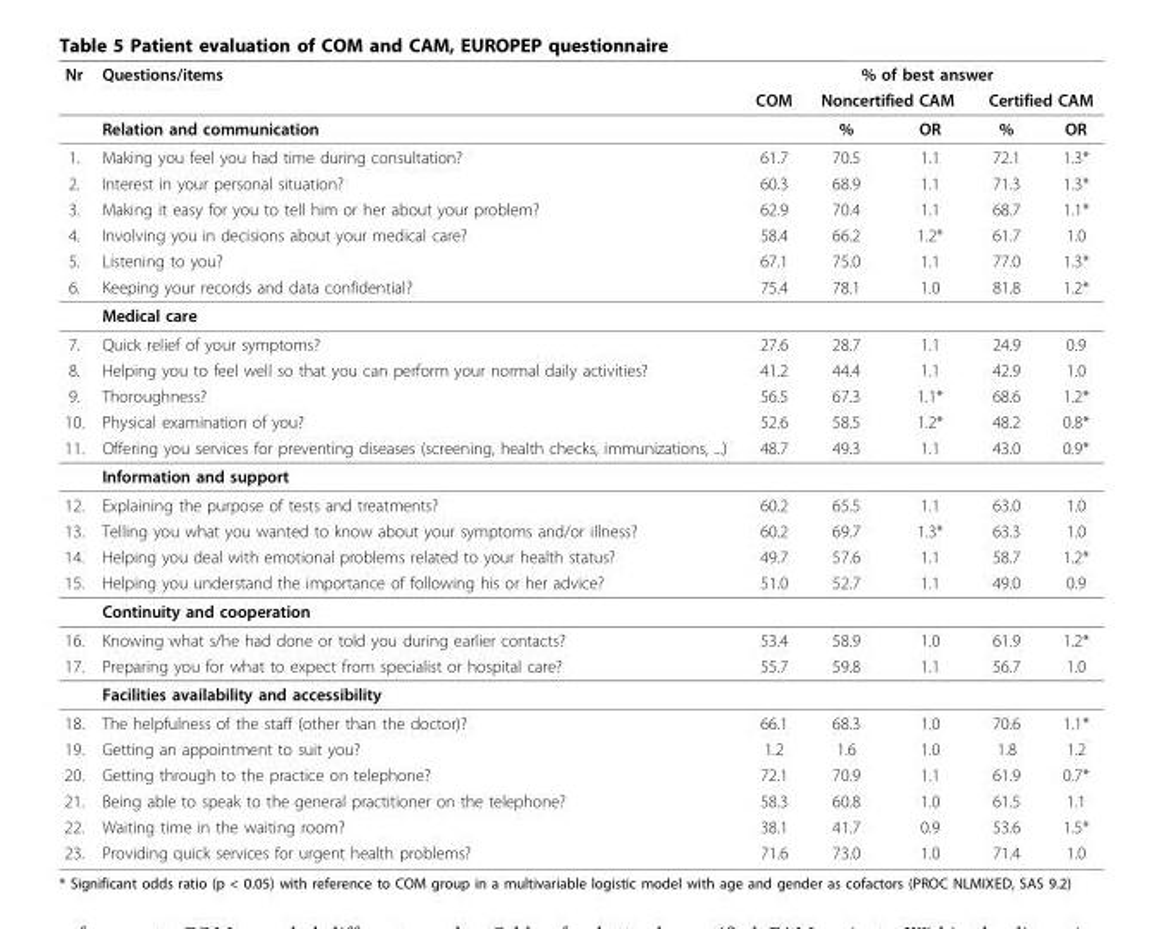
<table><thead><tr><td rowspan="3">Nr</td><td rowspan="3">Questions/items Relation and communication</td><td colspan="5">% of best answer</td></tr><tr><td rowspan="2">COM</td><td colspan="2">Noncertified CAM</td><td colspan="2">Certified CAM</td></tr><tr><td>%</td><td>OR</td><td>%</td><td>OR</td></tr></thead><tbody><tr><td>1.</td><td>Making you feel you had time during consultation?</td><td>61.7</td><td>70.5</td><td>1.1</td><td>72.1</td><td>1.3*</td></tr><tr><td>2.</td><td>Interest in your personal situation?</td><td>60.3</td><td>68.9</td><td>1.1</td><td>71.3</td><td>1.3*</td></tr><tr><td>3.</td><td>Making it easy for you to tell him or her about your problem?</td><td>62.9</td><td>70.4</td><td>1.1</td><td>68.7</td><td>1.1*</td></tr><tr><td>4.</td><td>Involving you in decisions about your medical care?</td><td>58.4</td><td>66.2</td><td>1.2*</td><td>61.7</td><td>1.0</td></tr><tr><td>5.</td><td>Listening to you?</td><td>67.1</td><td>75.0</td><td>1.1</td><td>77.0</td><td>1.3*</td></tr><tr><td rowspan="2">6.</td><td>Keeping your records and data confidential?</td><td>75.4</td><td>78.1</td><td>1.0</td><td>81.8</td><td>1.2*</td></tr><tr><td>Medical care</td><td></td><td></td><td></td><td></td><td></td></tr><tr><td>7.</td><td>Quick relief of your symptoms?</td><td>27.6</td><td>28.7</td><td>1.1</td><td>24.9</td><td>0.9</td></tr><tr><td>8.</td><td>Helping you to feel well so that you can perform your normal daily activities?</td><td>41.2</td><td>44.4</td><td>1.1</td><td>42.9</td><td>1.0</td></tr><tr><td>9.</td><td>Thoroughness?</td><td>56.5</td><td>67.3</td><td>1.1*</td><td>68.6</td><td>1.2*</td></tr><tr><td>10.</td><td>Physical examination of you?</td><td>52.6</td><td>58.5</td><td>1.2*</td><td>48.2</td><td>0.8*</td></tr><tr><td rowspan="2">11.</td><td>Offering you services for preventing diseases (screening, health checks, immunizations, ...)</td><td>48.7</td><td>49.3</td><td>1.1</td><td>43.0</td><td>0.9*</td></tr><tr><td>Information and support</td><td></td><td></td><td></td><td></td><td></td></tr><tr><td>12.</td><td>Explaining the purpose of tests and treatments?</td><td>60.2</td><td>65.5</td><td>1.1</td><td>63.0</td><td>1.0</td></tr><tr><td>13.</td><td>Telling you what you wanted to know about your symptoms and/or illness?</td><td>60.2</td><td>69.7</td><td>1.3*</td><td>63.3</td><td>1.0</td></tr><tr><td>14.</td><td>Helping you deal with emotional problems related to your health status?</td><td>49.7</td><td>57.6</td><td>1.1</td><td>58.7</td><td>1.2*</td></tr><tr><td rowspan="2">15.</td><td>Helping you understand the importance of following his or her advice?</td><td>51.0</td><td>52.7</td><td>1.1</td><td>49.0</td><td>0.9</td></tr><tr><td>Continuity and cooperation</td><td></td><td></td><td></td><td></td><td></td></tr><tr><td>16.</td><td>Knowing what s/he had done or told you during earlier contacts?</td><td>53.4</td><td>58.9</td><td>1.0</td><td>61.9</td><td>1.2*</td></tr><tr><td rowspan="2">17.</td><td>Preparing you for what to expect from specialist or hospital care?</td><td>55.7</td><td>59.8</td><td>1.1</td><td>56.7</td><td>1.0</td></tr><tr><td>Facilities availability and accessibility</td><td></td><td></td><td></td><td></td><td></td></tr><tr><td>18.</td><td>The helpfulness of the staff (other than the doctor)?</td><td>66.1</td><td>68.3</td><td>1.0</td><td>70.6</td><td>1.1*</td></tr><tr><td>19.</td><td>Getting an appointment to suit you?</td><td>1.2</td><td>1.6</td><td>1.0</td><td>1.8</td><td>1.2</td></tr><tr><td>20.</td><td>Getting through to the practice on telephone?</td><td>72.1</td><td>70.9</td><td>1.1</td><td>61.9</td><td>0.7*</td></tr><tr><td>21.</td><td>Being able to speak to the general practitioner on the telephone?</td><td>58.3</td><td>60.8</td><td>1.0</td><td>61.5</td><td>1.1</td></tr><tr><td>22.</td><td>Waiting time in the waiting room?</td><td>38.1</td><td>41.7</td><td>0.9</td><td>53.6</td><td>1.5*</td></tr><tr><td>23.</td><td>Providing quick services for urgent health problems?</td><td>71.6</td><td>73.0</td><td>1.0</td><td>71.4</td><td>1.0</td></tr></tbody></table>